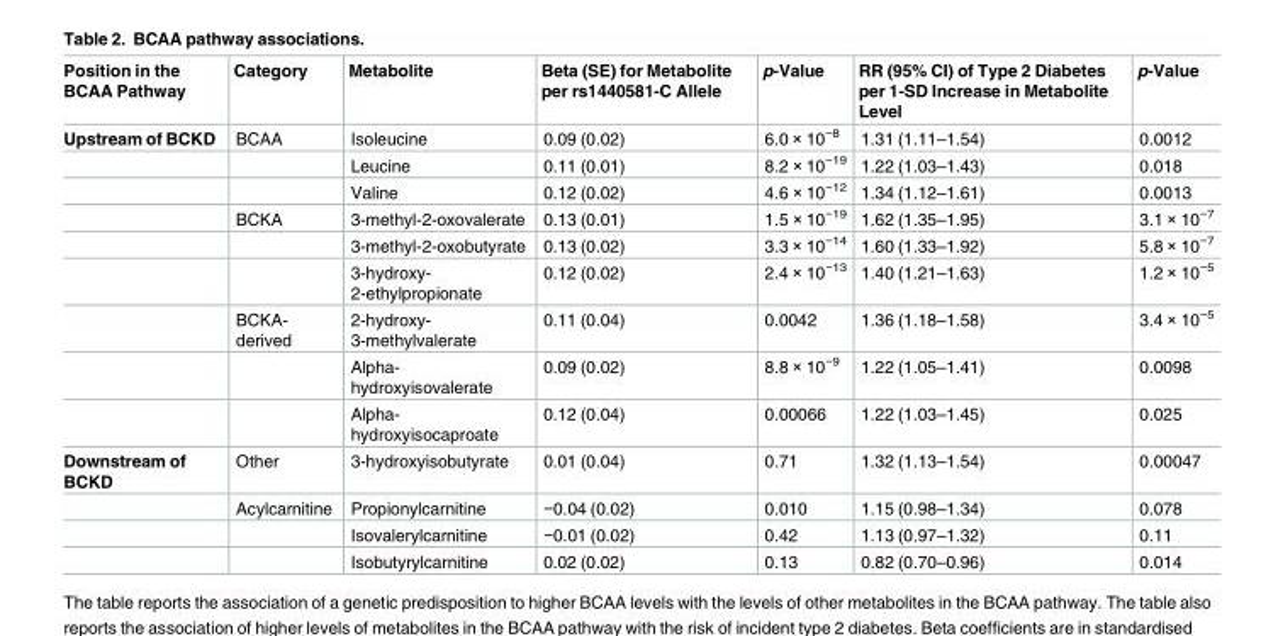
<table><thead><tr><td>Position in the BCAA Pathway</td><td>Category</td><td>Metabolite</td><td>Beta (SE) for Metabolite per rs1440581-C Allele</td><td>p-Value</td><td>RR (95% CI) of Type 2 Diabetes per 1-SD Increase in Metabolite Level</td><td>p-Value</td></tr></thead><tbody><tr><td rowspan="9">Upstream of BCKD</td><td>BCAA</td><td>Isoleucine</td><td>0.09 (0.02)</td><td>6.0 × 10<sup>−8</sup></td><td>1.31 (1.11–1.54)</td><td>0.0012</td></tr><tr><td></td><td>Leucine</td><td>0.11 (0.01)</td><td>8.2 × 10<sup>−19</sup></td><td>1.22 (1.03–1.43)</td><td>0.018</td></tr><tr><td></td><td>Valine</td><td>0.12 (0.02)</td><td>4.6 × 10<sup>−12</sup></td><td>1.34 (1.12–1.61)</td><td>0.0013</td></tr><tr><td>BCKA</td><td>3-methyl-2-oxovalerate</td><td>0.13 (0.01)</td><td>1.5 × 10<sup>−19</sup></td><td>1.62 (1.35–1.95)</td><td>3.1 × 10<sup>−7</sup></td></tr><tr><td></td><td>3-methyl-2-oxobutyrate</td><td>0.13 (0.02)</td><td>3.3 × 10<sup>−14</sup></td><td>1.60 (1.33–1.92)</td><td>5.8 × 10<sup>−7</sup></td></tr><tr><td></td><td>3-hydroxy- 2-ethylpropionate</td><td>0.12 (0.02)</td><td>2.4 × 10<sup>−13</sup></td><td>1.40 (1.21–1.63)</td><td>1.2 × 10<sup>−5</sup></td></tr><tr><td>BCKA- derived</td><td>2-hydroxy- 3-methylvalerate</td><td>0.11 (0.04)</td><td>0.0042</td><td>1.36 (1.18–1.58)</td><td>3.4 × 10<sup>−5</sup></td></tr><tr><td></td><td>Alpha- hydroxyisovalerate</td><td>0.09 (0.02)</td><td>8.8 × 10<sup>−9</sup></td><td>1.22 (1.05–1.41)</td><td>0.0098</td></tr><tr><td></td><td>Alpha- hydroxyisocaproate</td><td>0.12 (0.04)</td><td>0.00066</td><td>1.22 (1.03–1.45)</td><td>0.025</td></tr><tr><td rowspan="4">Downstream of BCKD</td><td>Other</td><td>3-hydroxyisobutyrate</td><td>0.01 (0.04)</td><td>0.71</td><td>1.32 (1.13–1.54)</td><td>0.00047</td></tr><tr><td>Acylcarnitine</td><td>Propionylcarnitine</td><td>−0.04 (0.02)</td><td>0.010</td><td>1.15 (0.98–1.34)</td><td>0.078</td></tr><tr><td></td><td>Isovalerylcarnitine</td><td>−0.01 (0.02)</td><td>0.42</td><td>1.13 (0.97–1.32)</td><td>0.11</td></tr><tr><td></td><td>Isobutyrylcarnitine</td><td>0.02 (0.02)</td><td>0.13</td><td>0.82 (0.70–0.96)</td><td>0.014</td></tr></tbody></table>